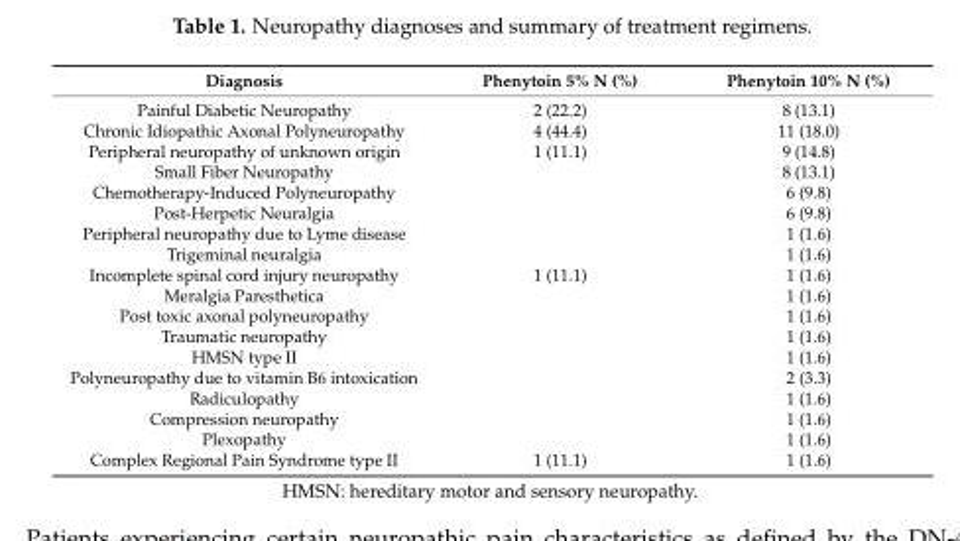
<table><thead><tr><td>Diagnosis</td><td>Phenytoin 5% N (%)</td><td>Phenytoin 10% N (%)</td></tr></thead><tbody><tr><td>Painful Diabetic Neuropathy</td><td>2 (22.2)</td><td>8 (13.1)</td></tr><tr><td>Chronic Idiopathic Axonal Polyneuropathy</td><td>4 (44.4)</td><td>11 (18.0)</td></tr><tr><td>Peripheral neuropathy of unknown origin</td><td>1 (11.1)</td><td>9 (14.8)</td></tr><tr><td>Small Fiber Neuropathy</td><td></td><td>8 (13.1)</td></tr><tr><td>Chemotherapy-Induced Polyneuropathy</td><td></td><td>6 (9.8)</td></tr><tr><td>Post-Herpetic Neuralgia</td><td></td><td>6 (9.8)</td></tr><tr><td>Peripheral neuropathy due to Lyme disease</td><td></td><td>1 (1.6)</td></tr><tr><td>Trigeminal neuralgia</td><td></td><td>1 (1.6)</td></tr><tr><td>Incomplete spinal cord injury neuropathy</td><td>1 (11.1)</td><td>1 (1.6)</td></tr><tr><td>Meralgia Paresthetica</td><td></td><td>1 (1.6)</td></tr><tr><td>Post toxic axonal polyneuropathy</td><td></td><td>1 (1.6)</td></tr><tr><td>Traumatic neuropathy</td><td></td><td>1 (1.6)</td></tr><tr><td>HMSN type II</td><td></td><td>1 (1.6)</td></tr><tr><td>Polyneuropathy due to vitamin B6 intoxication</td><td></td><td>2 (3.3)</td></tr><tr><td>Radiculopathy</td><td></td><td>1 (1.6)</td></tr><tr><td>Compression neuropathy</td><td></td><td>1 (1.6)</td></tr><tr><td>Plexopathy</td><td></td><td>1 (1.6)</td></tr><tr><td>Complex Regional Pain Syndrome type II</td><td>1 (11.1)</td><td>1 (1.6)</td></tr></tbody></table>